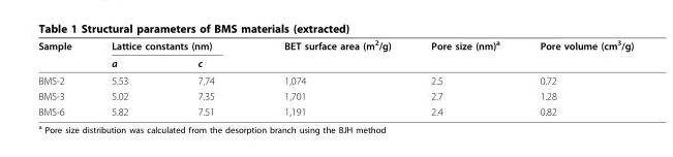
<table><thead><tr><td rowspan="2">Sample</td><td colspan="2">Lattice constants (nm)</td><td rowspan="2">BET surface area (m<sup>2</sup>/g)</td><td rowspan="2">Pore size (nm)<sup>a</sup></td><td rowspan="2">Pore volume (cm<sup>3</sup>/g)</td></tr><tr><td>a</td><td>c</td></tr></thead><tbody><tr><td>BMS-2</td><td>5.53</td><td>7.74</td><td>1,074</td><td>2.5</td><td>0.72</td></tr><tr><td>BMS-3</td><td>5.02</td><td>7.35</td><td>1,701</td><td>2.7</td><td>1.28</td></tr><tr><td>BMS-6</td><td>5.82</td><td>7.51</td><td>1,191</td><td>2.4</td><td>0.82</td></tr></tbody></table>